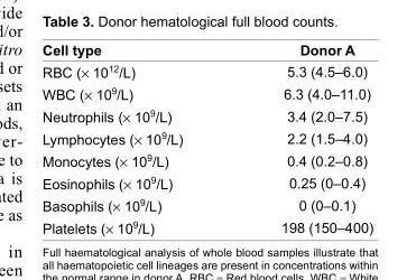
<table><thead><tr><td>Cell type</td><td>Donor A</td></tr></thead><tbody><tr><td>RBC (× 10<sup>12</sup>/L)</td><td>5.3 (4.5–6.0)</td></tr><tr><td>WBC (× 10<sup>9</sup>/L)</td><td>6.3 (4.0–11.0)</td></tr><tr><td>Neutrophils (× 10<sup>9</sup>/L)</td><td>3.4 (2.0–7.5)</td></tr><tr><td>Lymphocytes (× 10<sup>9</sup>/L)</td><td>2.2 (1.5–4.0)</td></tr><tr><td>Monocytes (× 10<sup>9</sup>/L)</td><td>0.4 (0.2–0.8)</td></tr><tr><td>Eosinophils (× 10<sup>9</sup>/L)</td><td>0.25 (0–0.4)</td></tr><tr><td>Basophils (× 10<sup>9</sup>/L)</td><td>0 (0–0.1)</td></tr><tr><td>Platelets (× 10<sup>9</sup>/L)</td><td>198 (150–400)</td></tr></tbody></table>